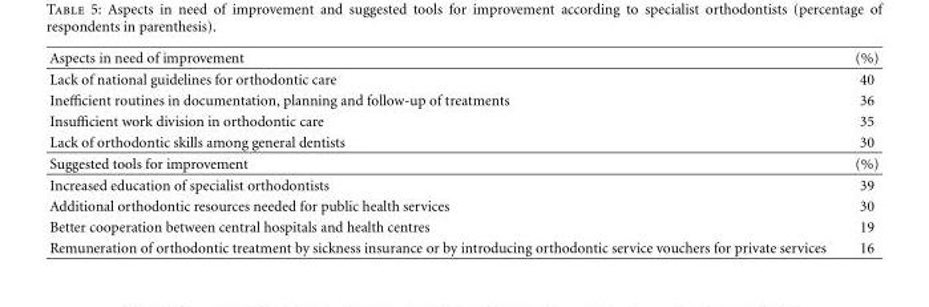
<table><thead><tr><td>Aspects in need of improvement</td><td>(%)</td></tr></thead><tbody><tr><td>Lack of national guidelines for orthodontic care</td><td>40</td></tr><tr><td>Inefficient routines in documentation, planning and follow-up of treatments</td><td>36</td></tr><tr><td>Insufficient work division in orthodontic care</td><td>35</td></tr><tr><td>Lack of orthodontic skills among general dentists</td><td>30</td></tr><tr><td>Suggested tools for improvement</td><td>(%)</td></tr><tr><td>Increased education of specialist orthodontists</td><td>39</td></tr><tr><td>Additional orthodontic resources needed for public health services</td><td>30</td></tr><tr><td>Better cooperation between central hospitals and health centres</td><td>19</td></tr><tr><td>Remuneration of orthodontic treatment by sickness insurance or by introducing orthodontic service vouchers for private services</td><td>16</td></tr></tbody></table>